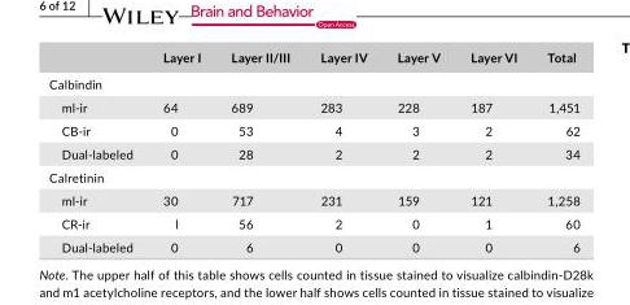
<table><thead><tr><td></td><td>Layer I</td><td>Layer II/III</td><td>Layer IV</td><td>Layer V</td><td>Layer VI</td><td>Total</td></tr></thead><tbody><tr><td colspan="7">Calbindin</td></tr><tr><td>ml- ir</td><td>64</td><td>689</td><td>283</td><td>228</td><td>187</td><td>1,451</td></tr><tr><td>CB- ir</td><td>0</td><td>53</td><td>4</td><td>3</td><td>2</td><td>62</td></tr><tr><td>Dual- labeled</td><td>0</td><td>28</td><td>2</td><td>2</td><td>2</td><td>34</td></tr><tr><td colspan="7">Calretinin</td></tr><tr><td>ml- ir</td><td>30</td><td>717</td><td>231</td><td>159</td><td>121</td><td>1,258</td></tr><tr><td>CR- ir</td><td>l</td><td>56</td><td>2</td><td>0</td><td>1</td><td>60</td></tr><tr><td>Dual- labeled</td><td>0</td><td>6</td><td>0</td><td>0</td><td>0</td><td>6</td></tr></tbody></table>